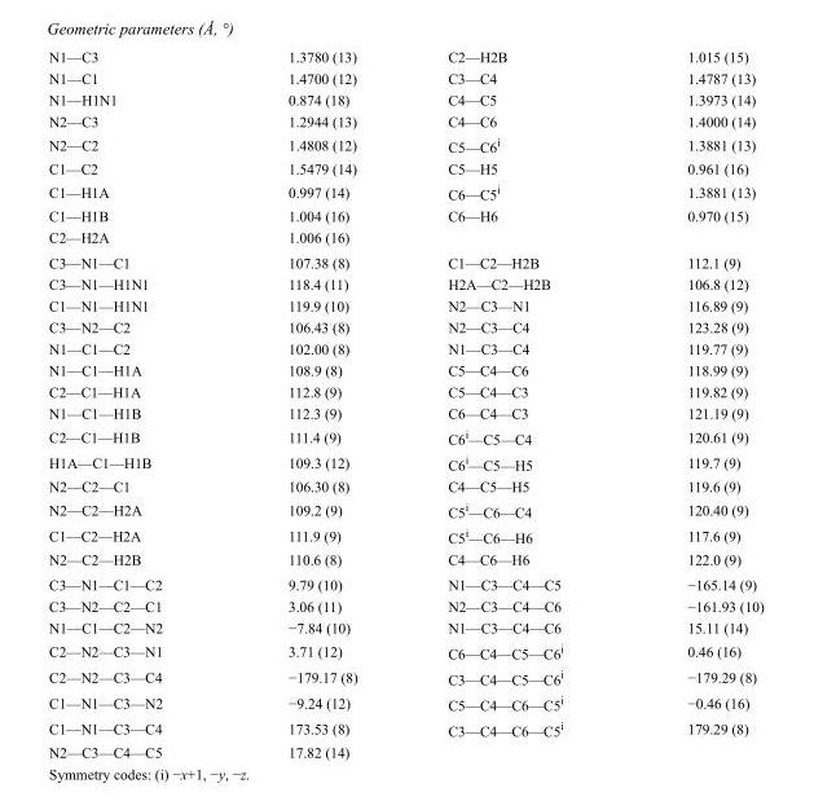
<table><tbody><tr><td>N1—C3</td><td>1.3780 (13)</td><td>C2—H2B</td><td>1.015 (15)</td></tr><tr><td>N1—C1</td><td>1.4700 (12)</td><td>C3—C4</td><td>1.4787 (13)</td></tr><tr><td>N1—H1N1</td><td>0.874 (18)</td><td>C4—C5</td><td>1.3973 (14)</td></tr><tr><td>N2—C3</td><td>1.2944 (13)</td><td>C4—C6</td><td>1.4000 (14)</td></tr><tr><td>N2—C2</td><td>1.4808 (12)</td><td>C5—C6<sup>i</sup></td><td>1.3881 (13)</td></tr><tr><td>C1—C2</td><td>1.5479 (14)</td><td>C5—H5</td><td>0.961 (16)</td></tr><tr><td>C1—H1A</td><td>0.997 (14)</td><td>C6—C5<sup>i</sup></td><td>1.3881 (13)</td></tr><tr><td>C1—H1B</td><td>1.004 (16)</td><td>C6—H6</td><td>0.970 (15)</td></tr><tr><td>C2—H2A</td><td>1.006 (16)</td><td></td><td></td></tr><tr><td>C3—N1—C1</td><td>107.38 (8)</td><td>C1—C2—H2B</td><td>112.1 (9)</td></tr><tr><td>C3—N1—H1N1</td><td>118.4 (11)</td><td>H2A—C2—H2B</td><td>106.8 (12)</td></tr><tr><td>C1—N1—H1N1</td><td>119.9 (10)</td><td>N2—C3—N1</td><td>116.89 (9)</td></tr><tr><td>C3—N2—C2</td><td>106.43 (8)</td><td>N2—C3—C4</td><td>123.28 (9)</td></tr><tr><td>N1—C1—C2</td><td>102.00 (8)</td><td>N1—C3—C4</td><td>119.77 (9)</td></tr><tr><td>N1—C1—H1A</td><td>108.9 (8)</td><td>C5—C4—C6</td><td>118.99 (9)</td></tr><tr><td>C2—C1—H1A</td><td>112.8 (9)</td><td>C5—C4—C3</td><td>119.82 (9)</td></tr><tr><td>N1—C1—H1B</td><td>112.3 (9)</td><td>C6—C4—C3</td><td>121.19 (9)</td></tr><tr><td>C2—C1—H1B</td><td>111.4 (9)</td><td>C6<sup>i</sup>—C5—C4</td><td>120.61 (9)</td></tr><tr><td>H1A—C1—H1B</td><td>109.3 (12)</td><td>C6<sup>i</sup>—C5—H5</td><td>119.7 (9)</td></tr><tr><td>N2—C2—C1</td><td>106.30 (8)</td><td>C4—C5—H5</td><td>119.6 (9)</td></tr><tr><td>N2—C2—H2A</td><td>109.2 (9)</td><td>C5<sup>i</sup>—C6—C4</td><td>120.40 (9)</td></tr><tr><td>C1—C2—H2A</td><td>111.9 (9)</td><td>C5<sup>i</sup>—C6—H6</td><td>117.6 (9)</td></tr><tr><td>N2—C2—H2B</td><td>110.6 (8)</td><td>C4—C6—H6</td><td>122.0 (9)</td></tr><tr><td>C3—N1—C1—C2</td><td>9.79 (10)</td><td>N1—C3—C4—C5</td><td>−165.14 (9)</td></tr><tr><td>C3—N2—C2—C1</td><td>3.06 (11)</td><td>N2—C3—C4—C6</td><td>−161.93 (10)</td></tr><tr><td>N1—C1—C2—N2</td><td>−7.84 (10)</td><td>N1—C3—C4—C6</td><td>15.11 (14)</td></tr><tr><td>C2—N2—C3—N1</td><td>3.71 (12)</td><td>C6—C4—C5—C6<sup>i</sup></td><td>0.46 (16)</td></tr><tr><td>C2—N2—C3—C4</td><td>−179.17 (8)</td><td>C3—C4—C5—C6<sup>i</sup></td><td>−179.29 (8)</td></tr><tr><td>C1—N1—C3—N2</td><td>−9.24 (12)</td><td>C5—C4—C6—C5<sup>i</sup></td><td>−0.46 (16)</td></tr><tr><td>C1—N1—C3—C4</td><td>173.53 (8)</td><td>C3—C4—C6—C5<sup>i</sup></td><td>179.29 (8)</td></tr><tr><td>N2—C3—C4—C5</td><td>17.82 (14)</td><td></td><td></td></tr></tbody></table>